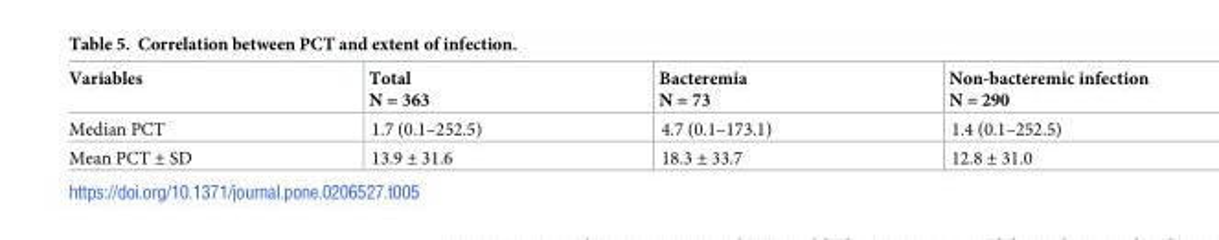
<table><thead><tr><td>Variables</td><td>Total N = 363</td><td>Bacteremia N = 73</td><td>Non-bacteremic infection N = 290</td></tr></thead><tbody><tr><td>Median PCT</td><td>1.7 (0.1–252.5)</td><td>4.7 (0.1–173.1)</td><td>1.4 (0.1–252.5)</td></tr><tr><td>Mean PCT ± SD</td><td>13.9 ± 31.6</td><td>18.3 ± 33.7</td><td>12.8 ± 31.0</td></tr></tbody></table>